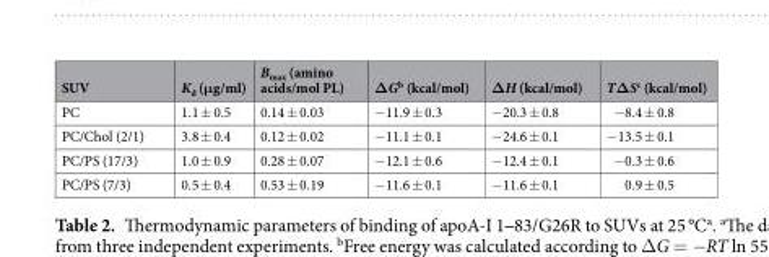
<table><thead><tr><td>SUV</td><td>K<sub>d</sub> (μg/ml)</td><td>B<sub>max</sub> (amino acids/mol PL)</td><td>ΔG<sup>b</sup> (kcal/mol)</td><td>ΔH (kcal/mol)</td><td>TΔS<sup>c</sup> (kcal/mol)</td></tr></thead><tbody><tr><td>PC</td><td>1.1 ± 0.5</td><td>0.14 ± 0.03</td><td>−11.9 ± 0.3</td><td>−20.3 ± 0.8</td><td>−8.4 ± 0.8</td></tr><tr><td>PC/Chol (2/1)</td><td>3.8 ± 0.4</td><td>0.12 ± 0.02</td><td>−11.1 ± 0.1</td><td>−24.6 ± 0.1</td><td>−13.5 ± 0.1</td></tr><tr><td>PC/PS (17/3)</td><td>1.0 ± 0.9</td><td>0.28 ± 0.07</td><td>−12.1 ± 0.6</td><td>−12.4 ± 0.1</td><td>−0.3 ± 0.6</td></tr><tr><td>PC/PS (7/3)</td><td>0.5 ± 0.4</td><td>0.53 ± 0.19</td><td>−11.6 ± 0.1</td><td>−11.6 ± 0.1</td><td>0.9 ± 0.5</td></tr></tbody></table>